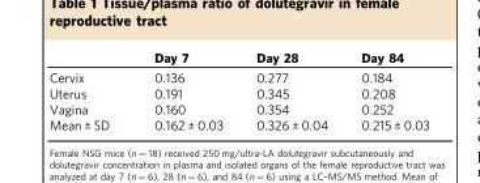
<table><thead><tr><td></td><td>Day 7</td><td>Day 28</td><td>Day 84</td></tr></thead><tbody><tr><td>Cervix</td><td>0.136</td><td>0.277</td><td>0.184</td></tr><tr><td>Uterus</td><td>0.191</td><td>0.345</td><td>0.208</td></tr><tr><td>Vagina</td><td>0.160</td><td>0.354</td><td>0.252</td></tr><tr><td>Mean ± SD</td><td>0.162 ± 0.03</td><td>0.326 ± 0.04</td><td>0.215 ± 0.03</td></tr></tbody></table>